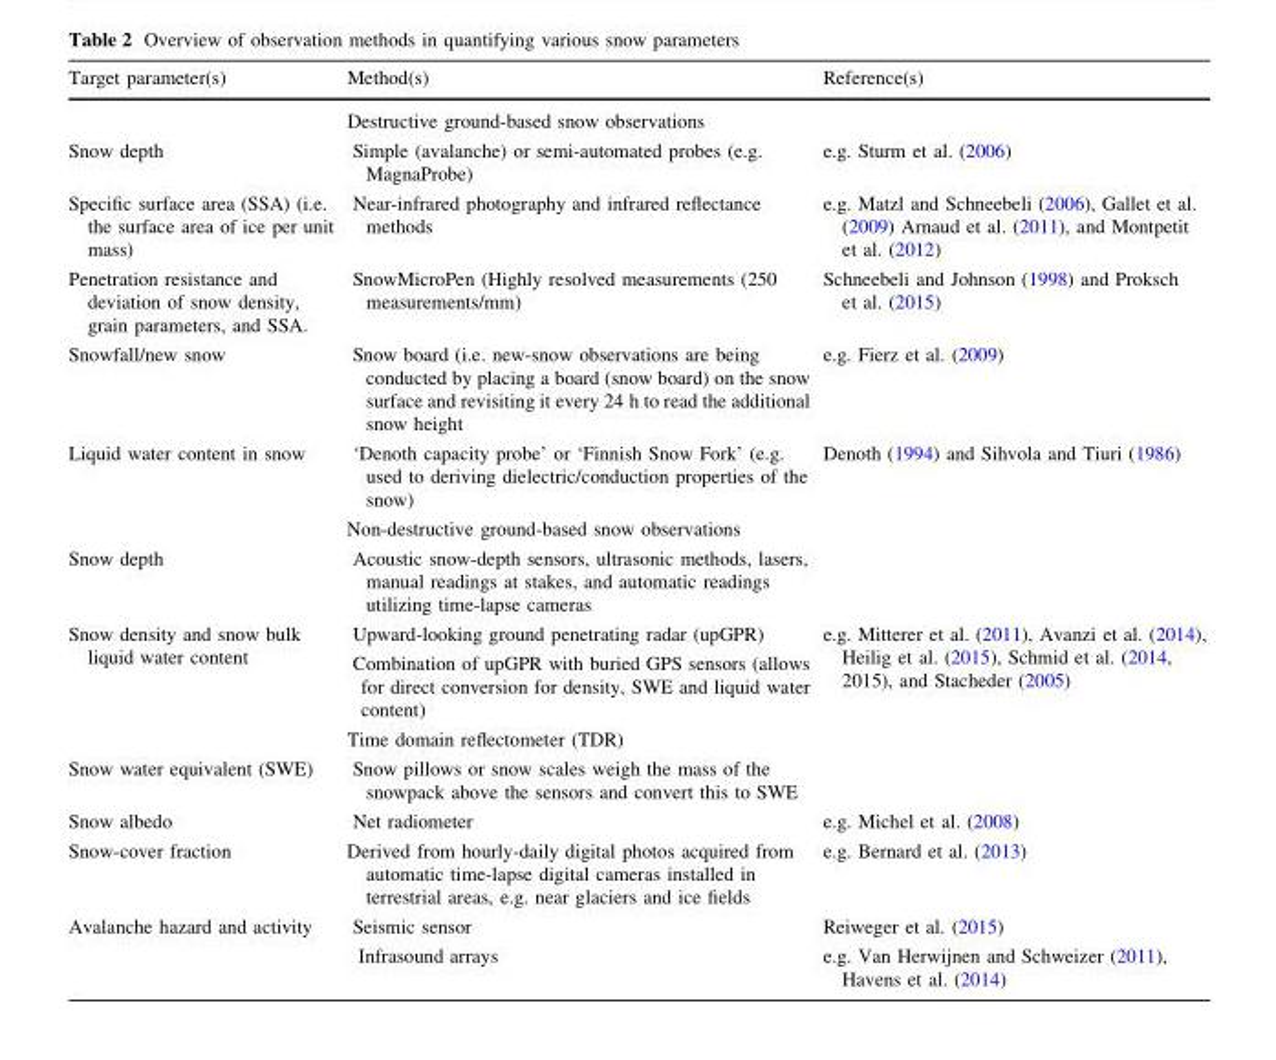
<table><thead><tr><td>Target parameter(s)</td><td>Method(s)</td><td>Reference(s)</td></tr></thead><tbody><tr><td></td><td>Destructive ground-based snow observations</td><td></td></tr><tr><td>Snow depth</td><td>Simple (avalanche) or semi-automated probes (e.g. MagnaProbe)</td><td>e.g. Sturm et al. (2006)</td></tr><tr><td>Specific surface area (SSA) (i.e. the surface area of ice per unit mass)</td><td>Near-infrared photography and infrared reflectance methods</td><td>e.g. Matzl and Schneebeli (2006), Gallet et al. (2009) Arnaud et al. (2011), and Montpetit et al. (2012)</td></tr><tr><td>Penetration resistance and deviation of snow density, grain parameters, and SSA.</td><td>SnowMicroPen (Highly resolved measurements (250 measurements/mm)</td><td>Schneebeli and Johnson (1998) and Proksch et al. (2015)</td></tr><tr><td>Snowfall/new snow</td><td>Snow board (i.e. new-snow observations are being conducted by placing a board (snow board) on the snow surface and revisiting it every 24 h to read the additional snow height</td><td>e.g. Fierz et al. (2009)</td></tr><tr><td rowspan="2">Liquid water content in snow</td><td>‘Denoth capacity probe’ or ‘Finnish Snow Fork’ (e.g. used to deriving dielectric/conduction properties of the snow)</td><td>Denoth (1994) and Sihvola and Tiuri (1986)</td></tr><tr><td>Non-destructive ground-based snow observations</td><td></td></tr><tr><td>Snow depth</td><td>Acoustic snow-depth sensors, ultrasonic methods, lasers, manual readings at stakes, and automatic readings utilizing time-lapse cameras</td><td></td></tr><tr><td>Snow density and snow bulk liquid water content</td><td>Upward-looking ground penetrating radar (upGPR) Combination of upGPR with buried GPS sensors (allows for direct conversion for density, SWE and liquid water content) Time domain reflectometer (TDR)</td><td>e.g. Mitterer et al. (2011), Avanzi et al. (2014), Heilig et al. (2015), Schmid et al. (2014, 2015), and Stacheder (2005)</td></tr><tr><td>Snow water equivalent (SWE)</td><td>Snow pillows or snow scales weigh the mass of the snowpack above the sensors and convert this to SWE</td><td></td></tr><tr><td>Snow albedo</td><td>Net radiometer</td><td>e.g. Michel et al. (2008)</td></tr><tr><td>Snow-cover fraction</td><td>Derived from hourly-daily digital photos acquired from automatic time-lapse digital cameras installed in terrestrial areas, e.g. near glaciers and ice fields</td><td>e.g. Bernard et al. (2013)</td></tr><tr><td rowspan="2">Avalanche hazard and activity</td><td>Seismic sensor</td><td>Reiweger et al. (2015)</td></tr><tr><td>Infrasound arrays</td><td>e.g. Van Herwijnen and Schweizer (2011), Havens et al. (2014)</td></tr></tbody></table>